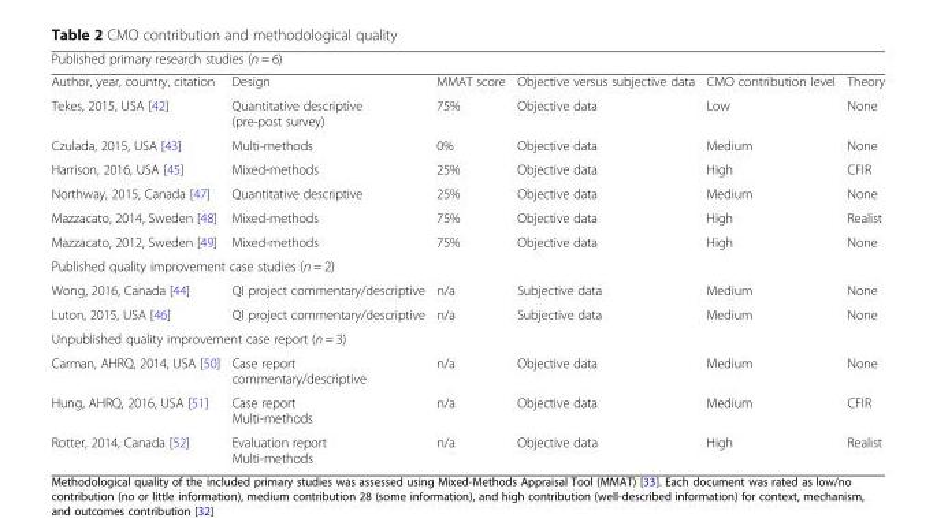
<table><thead><tr><td colspan="6">Published primary research studies (n = 6)</td></tr><tr><td>Author, year, country, citation</td><td>Design</td><td>MMAT score</td><td>Objective versus subjective data</td><td>CMO contribution level</td><td>Theory</td></tr></thead><tbody><tr><td>Tekes, 2015, USA [42]</td><td>Quantitative descriptive (pre-post survey)</td><td>75%</td><td>Objective data</td><td>Low</td><td>None</td></tr><tr><td>Czulada, 2015, USA [43]</td><td>Multi-methods</td><td>0%</td><td>Objective data</td><td>Medium</td><td>None</td></tr><tr><td>Harrison, 2016, USA [45]</td><td>Mixed-methods</td><td>25%</td><td>Objective data</td><td>High</td><td>CFIR</td></tr><tr><td>Northway, 2015, Canada [47]</td><td>Quantitative descriptive</td><td>25%</td><td>Objective data</td><td>Medium</td><td>None</td></tr><tr><td>Mazzacato, 2014, Sweden [48]</td><td>Mixed-methods</td><td>75%</td><td>Objective data</td><td>High</td><td>Realist</td></tr><tr><td>Mazzacato, 2012, Sweden [49]</td><td>Mixed-methods</td><td>75%</td><td>Objective data</td><td>High</td><td>None</td></tr><tr><td colspan="6">Published quality improvement case studies (n = 2)</td></tr><tr><td>Wong, 2016, Canada [44]</td><td>QI project commentary/descriptive</td><td>n/a</td><td>Subjective data</td><td>Medium</td><td>None</td></tr><tr><td>Luton, 2015, USA [46]</td><td>QI project commentary/descriptive</td><td>n/a</td><td>Subjective data</td><td>Medium</td><td>None</td></tr><tr><td colspan="6">Unpublished quality improvement case report (n = 3)</td></tr><tr><td>Carman, AHRQ, 2014, USA [50]</td><td>Case report commentary/descriptive</td><td>n/a</td><td>Objective data</td><td>Medium</td><td>None</td></tr><tr><td>Hung, AHRQ, 2016, USA [51]</td><td>Case report Multi-methods</td><td>n/a</td><td>Objective data</td><td>Medium</td><td>CFIR</td></tr><tr><td>Rotter, 2014, Canada [52]</td><td>Evaluation report Multi-methods</td><td>n/a</td><td>Objective data</td><td>High</td><td>Realist</td></tr></tbody></table>